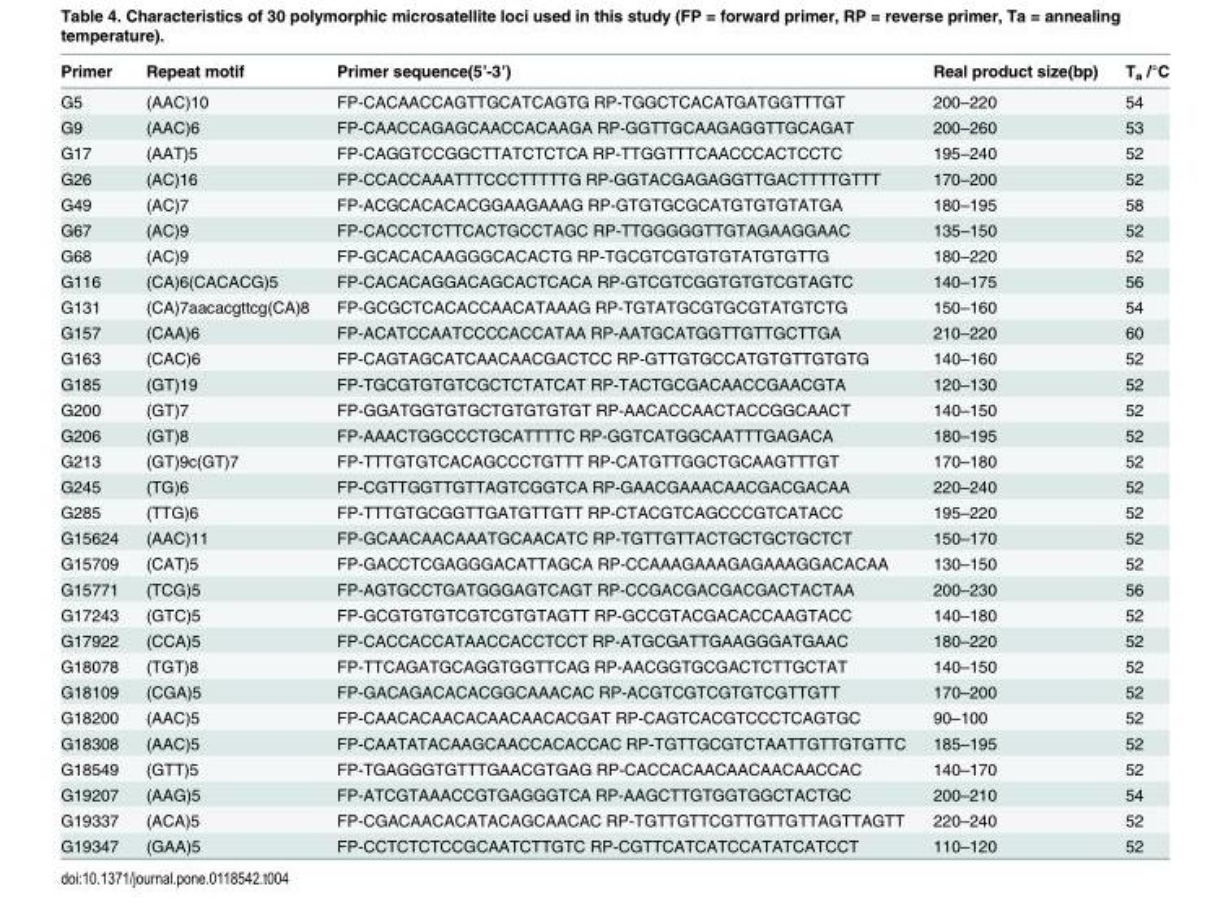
<table><thead><tr><td>Primer</td><td>Repeat motif</td><td>Primer sequence(5’-3’)</td><td>Real product size(bp)</td><td>T<sub>a</sub> /°C</td></tr></thead><tbody><tr><td>G5</td><td>(AAC)10</td><td>FP-CACAACCAGTTGCATCAGTG RP-TGGCTCACATGATGGTTTGT</td><td>200–220</td><td>54</td></tr><tr><td>G9</td><td>(AAC)6</td><td>FP-CAACCAGAGCAACCACAAGA RP-GGTTGCAAGAGGTTGCAGAT</td><td>200–260</td><td>53</td></tr><tr><td>G17</td><td>(AAT)5</td><td>FP-CAGGTCCGGCTTATCTCTCA RP-TTGGTTTCAACCCACTCCTC</td><td>195–240</td><td>52</td></tr><tr><td>G26</td><td>(AC)16</td><td>FP-CCACCAAATTTCCCTTTTTG RP-GGTACGAGAGGTTGACTTTTGTTT</td><td>170–200</td><td>52</td></tr><tr><td>G49</td><td>(AC)7</td><td>FP-ACGCACACACGGAAGAAAG RP-GTGTGCGCATGTGTGTATGA</td><td>180–195</td><td>58</td></tr><tr><td>G67</td><td>(AC)9</td><td>FP-CACCCTCTTCACTGCCTAGC RP-TTGGGGGTTGTAGAAGGAAC</td><td>135–150</td><td>52</td></tr><tr><td>G68</td><td>(AC)9</td><td>FP-GCACACAAGGGCACACTG RP-TGCGTCGTGTGTATGTGTTG</td><td>180–220</td><td>52</td></tr><tr><td>G116</td><td>(CA)6(CACACG)5</td><td>FP-CACACAGGACAGCACTCACA RP-GTCGTCGGTGTGTCGTAGTC</td><td>140–175</td><td>56</td></tr><tr><td>G131</td><td>(CA)7aacacgttcg(CA)8</td><td>FP-GCGCTCACACCAACATAAAG RP-TGTATGCGTGCGTATGTCTG</td><td>150–160</td><td>54</td></tr><tr><td>G157</td><td>(CAA)6</td><td>FP-ACATCCAATCCCCACCATAA RP-AATGCATGGTTGTTGCTTGA</td><td>210–220</td><td>60</td></tr><tr><td>G163</td><td>(CAC)6</td><td>FP-CAGTAGCATCAACAACGACTCC RP-GTTGTGCCATGTGTTGTGTG</td><td>140–160</td><td>52</td></tr><tr><td>G185</td><td>(GT)19</td><td>FP-TGCGTGTGTCGCTCTATCAT RP-TACTGCGACAACCGAACGTA</td><td>120–130</td><td>52</td></tr><tr><td>G200</td><td>(GT)7</td><td>FP-GGATGGTGTGCTGTGTGTGT RP-AACACCAACTACCGGCAACT</td><td>140–150</td><td>52</td></tr><tr><td>G206</td><td>(GT)8</td><td>FP-AAACTGGCCCTGCATTTTC RP-GGTCATGGCAATTTGAGACA</td><td>180–195</td><td>52</td></tr><tr><td>G213</td><td>(GT)9c(GT)7</td><td>FP-TTTGTGTCACAGCCCTGTTT RP-CATGTTGGCTGCAAGTTTGT</td><td>170–180</td><td>52</td></tr><tr><td>G245</td><td>(TG)6</td><td>FP-CGTTGGTTGTTAGTCGGTCA RP-GAACGAAACAACGACGACAA</td><td>220–240</td><td>52</td></tr><tr><td>G285</td><td>(TTG)6</td><td>FP-TTTGTGCGGTTGATGTTGTT RP-CTACGTCAGCCCGTCATACC</td><td>195–220</td><td>52</td></tr><tr><td>G15624</td><td>(AAC)11</td><td>FP-GCAACAACAAATGCAACATC RP-TGTTGTTACTGCTGCTGCTCT</td><td>150–170</td><td>52</td></tr><tr><td>G15709</td><td>(CAT)5</td><td>FP-GACCTCGAGGGACATTAGCA RP-CCAAAGAAAGAGAAAGGACACAA</td><td>130–150</td><td>52</td></tr><tr><td>G15771</td><td>(TCG)5</td><td>FP-AGTGCCTGATGGGAGTCAGT RP-CCGACGACGACGACTACTAA</td><td>200–230</td><td>56</td></tr><tr><td>G17243</td><td>(GTC)5</td><td>FP-GCGTGTGTCGTCGTGTAGTT RP-GCCGTACGACACCAAGTACC</td><td>140–180</td><td>52</td></tr><tr><td>G17922</td><td>(CCA)5</td><td>FP-CACCACCATAACCACCTCCT RP-ATGCGATTGAAGGGATGAAC</td><td>180–220</td><td>52</td></tr><tr><td>G18078</td><td>(TGT)8</td><td>FP-TTCAGATGCAGGTGGTTCAG RP-AACGGTGCGACTCTTGCTAT</td><td>140–150</td><td>52</td></tr><tr><td>G18109</td><td>(CGA)5</td><td>FP-GACAGACACACGGCAAACAC RP-ACGTCGTCGTGTCGTTGTT</td><td>170–200</td><td>52</td></tr><tr><td>G18200</td><td>(AAC)5</td><td>FP-CAACACAACACAACAACACGAT RP-CAGTCACGTCCCTCAGTGC</td><td>90–100</td><td>52</td></tr><tr><td>G18308</td><td>(AAC)5</td><td>FP-CAATATACAAGCAACCACACCAC RP-TGTTGCGTCTAATTGTTGTGTTC</td><td>185–195</td><td>52</td></tr><tr><td>G18549</td><td>(GTT)5</td><td>FP-TGAGGGTGTTTGAACGTGAG RP-CACCACAACAACAACAACCAC</td><td>140–170</td><td>52</td></tr><tr><td>G19207</td><td>(AAG)5</td><td>FP-ATCGTAAACCGTGAGGGTCA RP-AAGCTTGTGGTGGCTACTGC</td><td>200–210</td><td>54</td></tr><tr><td>G19337</td><td>(ACA)5</td><td>FP-CGACAACACATACAGCAACAC RP-TGTTGTTCGTTGTTGTTAGTTAGTT</td><td>220–240</td><td>52</td></tr><tr><td>G19347</td><td>(GAA)5</td><td>FP-CCTCTCTCCGCAATCTTGTC RP-CGTTCATCATCCATATCATCCT</td><td>110–120</td><td>52</td></tr></tbody></table>